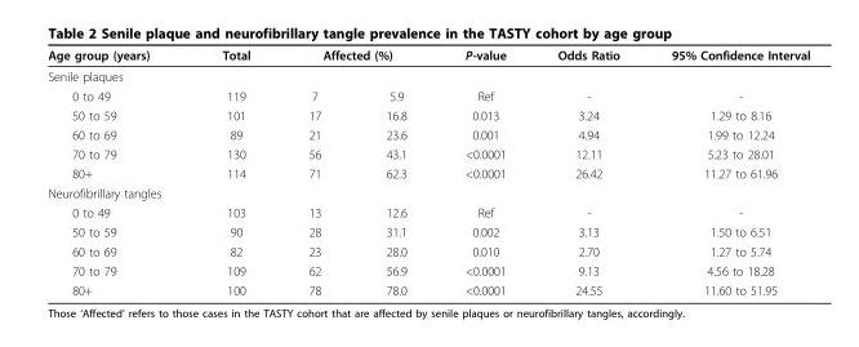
<table><thead><tr><td>Age group (years)</td><td>Total</td><td colspan="2">Affected (%)</td><td>P-value</td><td>Odds Ratio</td><td>95% Confidence Interval</td></tr><tr><td colspan="7">Senile plaques</td></tr><tr><td>0 to 49</td><td>119</td><td>7</td><td>5.9</td><td>Ref</td><td>-</td><td>-</td></tr></thead><tbody><tr><td>50 to 59</td><td>101</td><td>17</td><td>16.8</td><td>0.013</td><td>3.24</td><td>1.29 to 8.16</td></tr><tr><td>60 to 69</td><td>89</td><td>21</td><td>23.6</td><td>0.001</td><td>4.94</td><td>1.99 to 12.24</td></tr><tr><td>70 to 79</td><td>130</td><td>56</td><td>43.1</td><td>&lt;0.0001</td><td>12.11</td><td>5.23 to 28.01</td></tr><tr><td>80+</td><td>114</td><td>71</td><td>62.3</td><td>&lt;0.0001</td><td>26.42</td><td>11.27 to 61.96</td></tr><tr><td colspan="7">Neurofibrillary tangles</td></tr><tr><td>0 to 49</td><td>103</td><td>13</td><td>12.6</td><td>Ref</td><td>-</td><td>-</td></tr><tr><td>50 to 59</td><td>90</td><td>28</td><td>31.1</td><td>0.002</td><td>3.13</td><td>1.50 to 6.51</td></tr><tr><td>60 to 69</td><td>82</td><td>23</td><td>28.0</td><td>0.010</td><td>2.70</td><td>1.27 to 5.74</td></tr><tr><td>70 to 79</td><td>109</td><td>62</td><td>56.9</td><td>&lt;0.0001</td><td>9.13</td><td>4.56 to 18.28</td></tr><tr><td>80+</td><td>100</td><td>78</td><td>78.0</td><td>&lt;0.0001</td><td>24.55</td><td>11.60 to 51.95</td></tr></tbody></table>